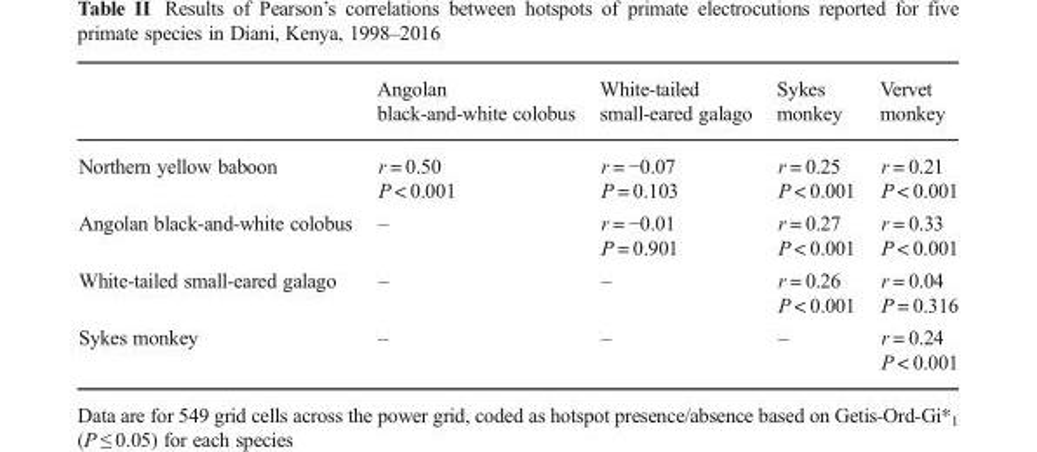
<table><thead><tr><td></td><td>Angolan black-and-white colobus</td><td>White-tailed small-eared galago</td><td>Sykes monkey</td><td>Vervet monkey</td></tr></thead><tbody><tr><td>Northern yellow baboon</td><td>r = 0.50 P &lt; 0.001</td><td>r = −0.07 P = 0.103</td><td>r = 0.25 P &lt; 0.001</td><td>r = 0.21 P &lt; 0.001</td></tr><tr><td>Angolan black-and-white colobus</td><td>–</td><td>r = −0.01 P = 0.901</td><td>r = 0.27 P &lt; 0.001</td><td>r = 0.33 P &lt; 0.001</td></tr><tr><td>White-tailed small-eared galago</td><td>–</td><td>–</td><td>r = 0.26 P &lt; 0.001</td><td>r = 0.04 P = 0.316</td></tr><tr><td>Sykes monkey</td><td>–</td><td>–</td><td>–</td><td>r = 0.24 P &lt; 0.001</td></tr></tbody></table>